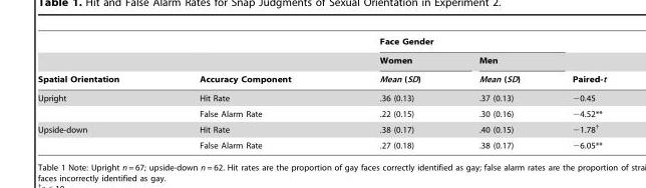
<table><thead><tr><td rowspan="3">Spatial Orientation</td><td rowspan="3">Accuracy Component</td><td colspan="2">Face Gender</td><td rowspan="3">Paired-t</td></tr><tr><td rowspan="2">Women Mean (SD)</td><td rowspan="2">Men Mean (SD)</td></tr><tr></tr></thead><tbody><tr><td rowspan="2">Upright</td><td>Hit Rate</td><td>.36 (0.13)</td><td>.37 (0.13)</td><td>−0.45</td></tr><tr><td>False Alarm Rate</td><td>.22 (0.15)</td><td>.30 (0.16)</td><td>−4.52**</td></tr><tr><td rowspan="2">Upside-down</td><td>Hit Rate</td><td>.38 (0.17)</td><td>.40 (0.15)</td><td>−1.78†</td></tr><tr><td>False Alarm Rate</td><td>.27 (0.18)</td><td>.38 (0.17)</td><td>−6.05**</td></tr></tbody></table>